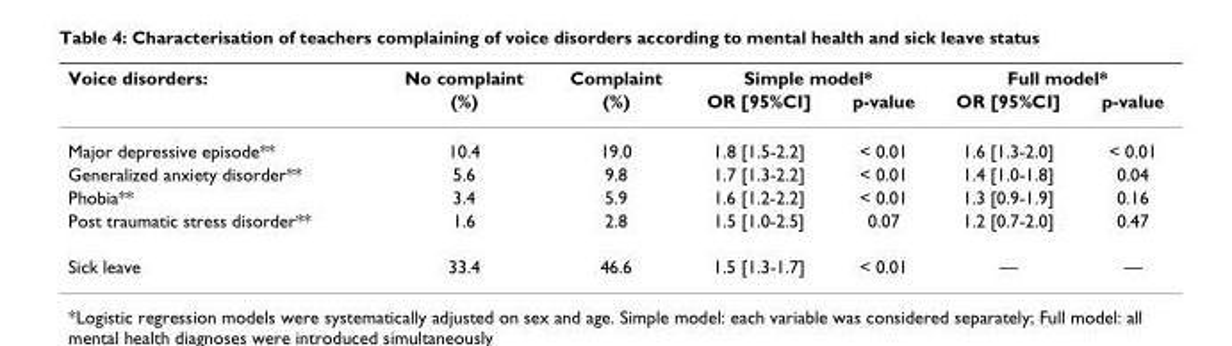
<table><thead><tr><td rowspan="2">Voice disorders:</td><td rowspan="2">No complaint (%)</td><td rowspan="2">Complaint (%)</td><td colspan="2">Simple model*</td><td colspan="2">Full model*</td></tr><tr><td>OR [95%CI]</td><td>p-value</td><td>OR [95%CI]</td><td>p-value</td></tr></thead><tbody><tr><td>Major depressive episode**</td><td>10.4</td><td>19.0</td><td>1.8 [1.5-2.2]</td><td>&lt; 0.01</td><td>1.6 [1.3-2.0]</td><td>&lt; 0.01</td></tr><tr><td>Generalized anxiety disorder**</td><td>5.6</td><td>9.8</td><td>1.7 [1.3-2.2]</td><td>&lt; 0.01</td><td>1.4 [1.0-1.8]</td><td>0.04</td></tr><tr><td>Phobia**</td><td>3.4</td><td>5.9</td><td>1.6 [1.2-2.2]</td><td>&lt; 0.01</td><td>1.3 [0.9-1.9]</td><td>0.16</td></tr><tr><td>Post traumatic stress disorder**</td><td>1.6</td><td>2.8</td><td>1.5 [1.0-2.5]</td><td>0.07</td><td>1.2 [0.7-2.0]</td><td>0.47</td></tr><tr><td>Sick leave</td><td>33.4</td><td>46.6</td><td>1.5 [1.3-1.7]</td><td>&lt; 0.01</td><td>—</td><td>—</td></tr></tbody></table>